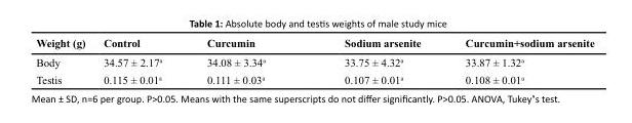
<table><thead><tr><td>Weight (g)</td><td>Control</td><td>Curcumin</td><td>Sodium arsenite</td><td>Curcumin+sodium arsenite</td></tr></thead><tbody><tr><td>Body</td><td>34.57 ± 2.17<sup>a</sup></td><td>34.08 ± 3.34<sup>a</sup></td><td>33.75 ± 4.32<sup>a</sup></td><td>33.87 ± 1.32<sup>a</sup></td></tr><tr><td>Testis</td><td>0.115 ± 0.01<sup>a</sup></td><td>0.111 ± 0.03<sup>a</sup></td><td>0.107 ± 0.01<sup>a</sup></td><td>0.108 ± 0.01<sup>a</sup></td></tr></tbody></table>